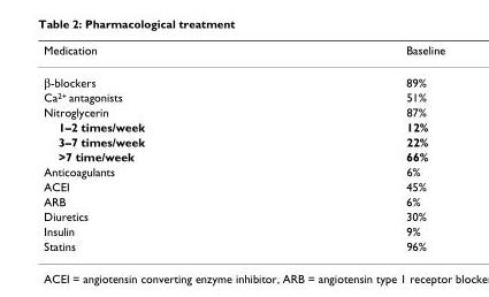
<table><thead><tr><td>Medication</td><td>Baseline</td></tr></thead><tbody><tr><td>β-blockers</td><td>89%</td></tr><tr><td>Ca<sup>2+</sup> antagonists</td><td>51%</td></tr><tr><td>Nitroglycerin</td><td>87%</td></tr><tr><td>1–2 times/week</td><td>12%</td></tr><tr><td>3–7 times/week</td><td>22%</td></tr><tr><td>&gt;7 time/week</td><td>66%</td></tr><tr><td>Anticoagulants</td><td>6%</td></tr><tr><td>ACEI</td><td>45%</td></tr><tr><td>ARB</td><td>6%</td></tr><tr><td>Diuretics</td><td>30%</td></tr><tr><td>Insulin</td><td>9%</td></tr><tr><td>Statins</td><td>96%</td></tr></tbody></table>